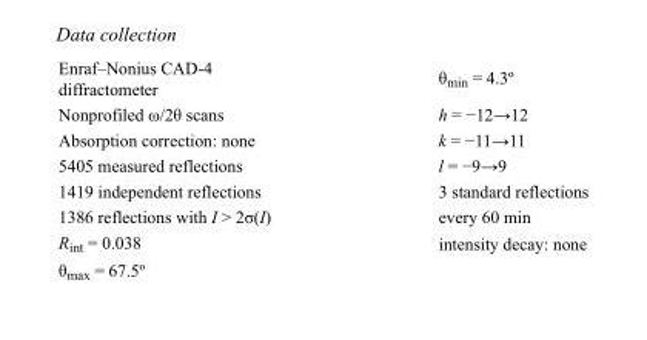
<table><tbody><tr><td>Enraf–Nonius CAD-4 diffractometer</td><td>θ<sub>min</sub> = 4.3º</td></tr><tr><td>Nonprofiled ω/2θ scans</td><td>h = −12→12</td></tr><tr><td>Absorption correction: none</td><td>k = −11→11</td></tr><tr><td>5405 measured reflections</td><td>l = −9→9</td></tr><tr><td>1419 independent reflections</td><td>3 standard reflections</td></tr><tr><td>1386 reflections with I &gt; 2σ(I)</td><td>every 60 min</td></tr><tr><td>R<sub>int</sub> = 0.038</td><td>intensity decay: none</td></tr><tr><td>θ<sub>max</sub> = 67.5º</td><td></td></tr></tbody></table>